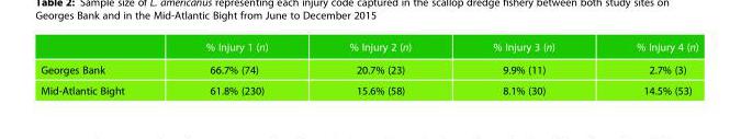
<table><thead><tr><td></td><td>% Injury 1 (n)</td><td>% Injury 2 (n)</td><td>% Injury 3 (n)</td><td>% Injury 4 (n)</td></tr></thead><tbody><tr><td>Georges Bank</td><td>66.7% (74)</td><td>20.7% (23)</td><td>9.9% (11)</td><td>2.7% (3)</td></tr><tr><td>Mid-Atlantic Bight</td><td>61.8% (230)</td><td>15.6% (58)</td><td>8.1% (30)</td><td>14.5% (53)</td></tr></tbody></table>